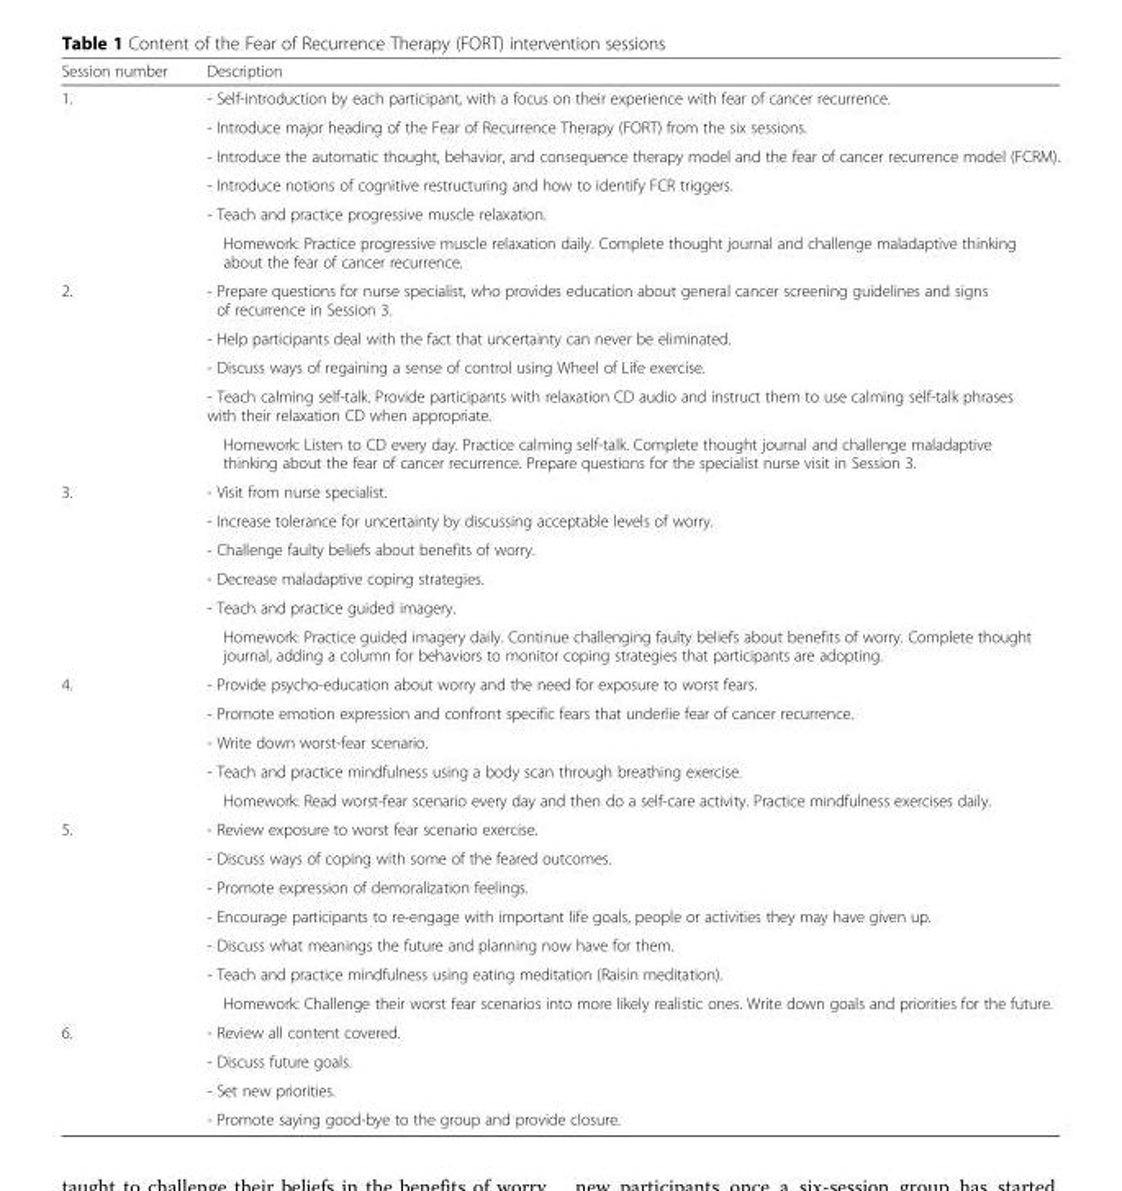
<table><thead><tr><td>Session number</td><td>Description</td></tr></thead><tbody><tr><td rowspan="6">1.</td><td>- Self-introduction by each participant, with a focus on their experience with fear of cancer recurrence.</td></tr><tr><td>- Introduce major heading of the Fear of Recurrence Therapy (FORT) from the six sessions.</td></tr><tr><td>- Introduce the automatic thought, behavior, and consequence therapy model and the fear of cancer recurrence model (FCRM).</td></tr><tr><td>- Introduce notions of cognitive restructuring and how to identify FCR triggers.</td></tr><tr><td>- Teach and practice progressive muscle relaxation.</td></tr><tr><td>Homework: Practice progressive muscle relaxation daily. Complete thought journal and challenge maladaptive thinking about the fear of cancer recurrence.</td></tr><tr><td rowspan="5">2.</td><td>- Prepare questions for nurse specialist, who provides education about general cancer screening guidelines and signs of recurrence in Session 3.</td></tr><tr><td>- Help participants deal with the fact that uncertainty can never be eliminated.</td></tr><tr><td>- Discuss ways of regaining a sense of control using Wheel of Life exercise.</td></tr><tr><td>- Teach calming self-talk. Provide participants with relaxation CD audio and instruct them to use calming self-talk phrases with their relaxation CD when appropriate.</td></tr><tr><td>Homework: Listen to CD every day. Practice calming self-talk. Complete thought journal and challenge maladaptive thinking about the fear of cancer recurrence. Prepare questions for the specialist nurse visit in Session 3.</td></tr><tr><td rowspan="6">3.</td><td>- Visit from nurse specialist.</td></tr><tr><td>- Increase tolerance for uncertainty by discussing acceptable levels of worry.</td></tr><tr><td>- Challenge faulty beliefs about benefits of worry.</td></tr><tr><td>- Decrease maladaptive coping strategies.</td></tr><tr><td>- Teach and practice guided imagery.</td></tr><tr><td>Homework: Practice guided imagery daily. Continue challenging faulty beliefs about benefits of worry. Complete thought journal, adding a column for behaviors to monitor coping strategies that participants are adopting.</td></tr><tr><td rowspan="5">4.</td><td>- Provide psycho-education about worry and the need for exposure to worst fears.</td></tr><tr><td>- Promote emotion expression and confront specific fears that underlie fear of cancer recurrence.</td></tr><tr><td>- Write down worst-fear scenario.</td></tr><tr><td>- Teach and practice mindfulness using a body scan through breathing exercise.</td></tr><tr><td>Homework: Read worst-fear scenario every day and then do a self-care activity. Practice mindfulness exercises daily.</td></tr><tr><td rowspan="7">5.</td><td>- Review exposure to worst fear scenario exercise.</td></tr><tr><td>- Discuss ways of coping with some of the feared outcomes.</td></tr><tr><td>- Promote expression of demoralization feelings.</td></tr><tr><td>- Encourage participants to re-engage with important life goals, people or activities they may have given up.</td></tr><tr><td>- Discuss what meanings the future and planning now have for them.</td></tr><tr><td>- Teach and practice mindfulness using eating meditation (Raisin meditation).</td></tr><tr><td>Homework: Challenge their worst fear scenarios into more likely realistic ones. Write down goals and priorities for the future.</td></tr><tr><td rowspan="4">6.</td><td>- Review all content covered.</td></tr><tr><td>- Discuss future goals.</td></tr><tr><td>- Set new priorities.</td></tr><tr><td>- Promote saying good-bye to the group and provide closure.</td></tr></tbody></table>